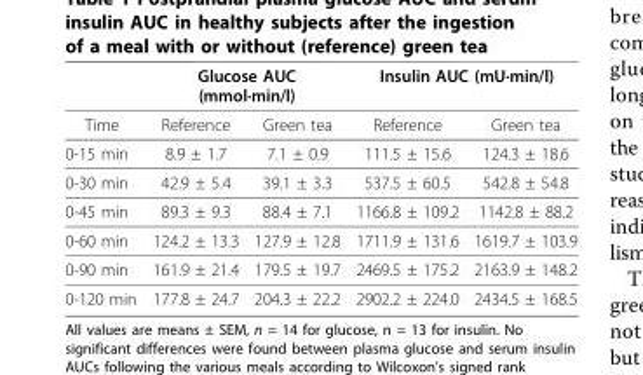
<table><thead><tr><td rowspan="2">Time</td><td colspan="2">Glucose AUC (mmol·min/l)</td><td colspan="2">Insulin AUC (mU·min/l)</td></tr><tr><td>Reference</td><td>Green tea</td><td>Reference</td><td>Green tea</td></tr></thead><tbody><tr><td>0-15 min</td><td>8.9 ± 1.7</td><td>7.1 ± 0.9</td><td>111.5 ± 15.6</td><td>124.3 ± 18.6</td></tr><tr><td>0-30 min</td><td>42.9 ± 5.4</td><td>39.1 ± 3.3</td><td>537.5 ± 60.5</td><td>542.8 ± 54.8</td></tr><tr><td>0-45 min</td><td>89.3 ± 9.3</td><td>88.4 ± 7.1</td><td>1166.8 ± 109.2</td><td>1142.8 ± 88.2</td></tr><tr><td>0-60 min</td><td>124.2 ± 13.3</td><td>127.9 ± 12.8</td><td>1711.9 ± 131.6</td><td>1619.7 ± 103.9</td></tr><tr><td>0-90 min</td><td>161.9 ± 21.4</td><td>179.5 ± 19.7</td><td>2469.5 ± 175.2</td><td>2163.9 ± 148.2</td></tr><tr><td>0-120 min</td><td>177.8 ± 24.7</td><td>204.3 ± 22.2</td><td>2902.2 ± 224.0</td><td>2434.5 ± 168.5</td></tr></tbody></table>